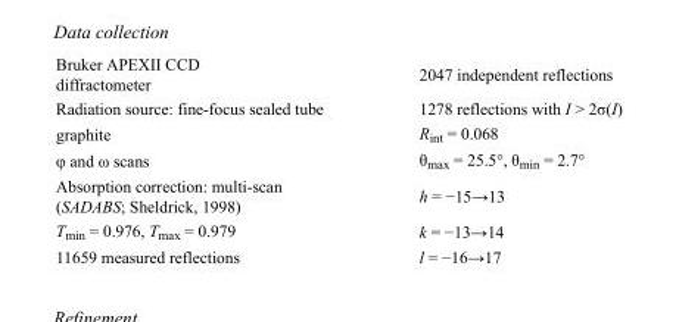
<table><tbody><tr><td>Bruker APEXII CCD diffractometer</td><td>2047 independent reflections</td></tr><tr><td>Radiation source: fine-focus sealed tube</td><td>1278 reflections with I &gt; 2σ(I)</td></tr><tr><td>graphite</td><td>R<sub>int</sub> = 0.068</td></tr><tr><td>φ and ω scans</td><td>θ<sub>max</sub> = 25.5°, θ<sub>min</sub> = 2.7°</td></tr><tr><td>Absorption correction: multi-scan (SADABS; Sheldrick, 1998)</td><td>h = −15→13</td></tr><tr><td>T<sub>min</sub> = 0.976, T<sub>max</sub> = 0.979</td><td>k = −13→14</td></tr><tr><td>11659 measured reflections</td><td>l = −16→17</td></tr></tbody></table>